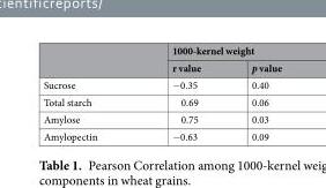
<table><thead><tr><td rowspan="2"></td><td colspan="2">1000-kernel weight</td></tr><tr><td>r value</td><td>p value</td></tr></thead><tbody><tr><td>Sucrose</td><td>−0.35</td><td>0.40</td></tr><tr><td>Total starch</td><td>0.69</td><td>0.06</td></tr><tr><td>Amylose</td><td>0.75</td><td>0.03</td></tr><tr><td>Amylopectin</td><td>−0.63</td><td>0.09</td></tr></tbody></table>